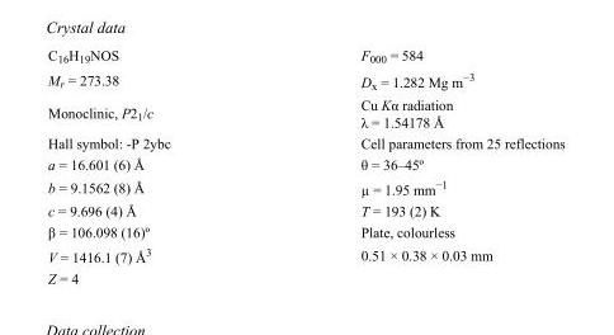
<table><tbody><tr><td>C<sub>16</sub>H<sub>19</sub>NOS</td><td>F000 = 584</td></tr><tr><td>M<sub>r</sub> = 273.38</td><td>D<sub>x</sub> = 1.282 Mg m<sup>−3</sup></td></tr><tr><td>Monoclinic, P2<sub>1</sub>/c</td><td>Cu Kα radiation λ = 1.54178 Å</td></tr><tr><td>Hall symbol: -P 2ybc</td><td>Cell parameters from 25 reflections</td></tr><tr><td>a = 16.601 (6) Å</td><td>θ = 36–45º</td></tr><tr><td>b = 9.1562 (8) Å</td><td>µ = 1.95 mm<sup>−1</sup></td></tr><tr><td>c = 9.696 (4) Å</td><td>T = 193 (2) K</td></tr><tr><td>β = 106.098 (16)º</td><td>Plate, colourless</td></tr><tr><td>V = 1416.1 (7) Å<sup>3</sup></td><td>0.51 × 0.38 × 0.03 mm</td></tr><tr><td>Z = 4</td><td></td></tr></tbody></table>